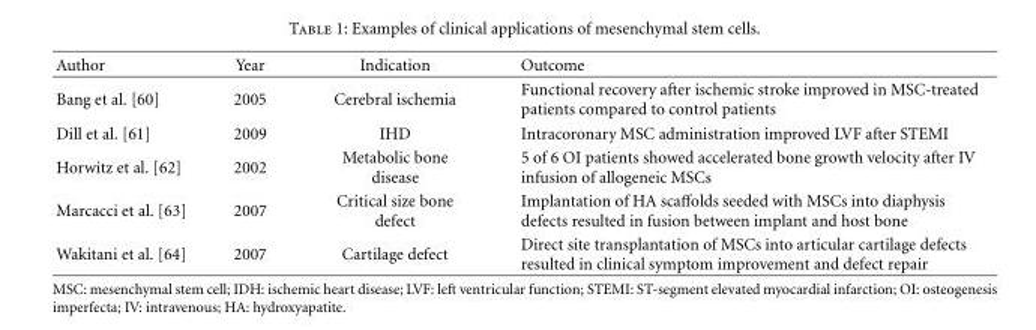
<table><thead><tr><td>Author</td><td>Year</td><td>Indication</td><td>Outcome</td></tr></thead><tbody><tr><td>Bang et al. [60]</td><td>2005</td><td>Cerebral ischemia</td><td>Functional recovery after ischemic stroke improved in MSC-treated patients compared to control patients</td></tr><tr><td>Dill et al. [61]</td><td>2009</td><td>IHD</td><td>Intracoronary MSC administration improved LVF after STEMI</td></tr><tr><td>Horwitz et al. [62]</td><td>2002</td><td>Metabolic bone disease</td><td>5 of 6 OI patients showed accelerated bone growth velocity after IV infusion of allogeneic MSCs</td></tr><tr><td>Marcacci et al. [63]</td><td>2007</td><td>Critical size bone defect</td><td>Implantation of HA scaffolds seeded with MSCs into diaphysis defects resulted in fusion between implant and host bone</td></tr><tr><td>Wakitani et al. [64]</td><td>2007</td><td>Cartilage defect</td><td>Direct site transplantation of MSCs into articular cartilage defects resulted in clinical symptom improvement and defect repair</td></tr></tbody></table>